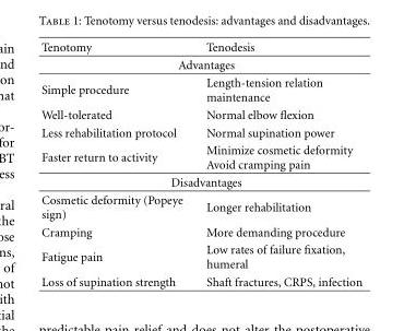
<table><thead><tr><td>Tenotomy</td><td>Tenodesis</td></tr></thead><tbody><tr><td colspan="2">Advantages</td></tr><tr><td>Simple procedure</td><td>Length-tension relation maintenance</td></tr><tr><td>Well-tolerated</td><td>Normal elbow flexion</td></tr><tr><td>Less rehabilitation protocol</td><td>Normal supination power</td></tr><tr><td>Faster return to activity</td><td>Minimize cosmetic deformity Avoid cramping pain</td></tr><tr><td colspan="2">Disadvantages</td></tr><tr><td>Cosmetic deformity (Popeye sign)</td><td>Longer rehabilitation</td></tr><tr><td>Cramping</td><td>More demanding procedure</td></tr><tr><td>Fatigue pain</td><td>Low rates of failure fixation, humeral</td></tr><tr><td>Loss of supination strength</td><td>Shaft fractures, CRPS, infection</td></tr></tbody></table>